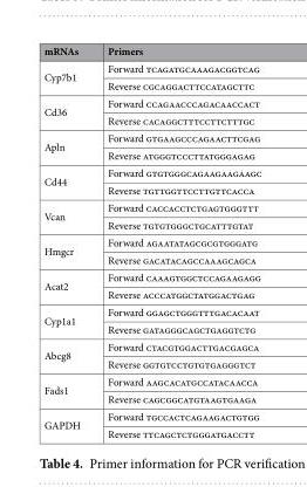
<table><thead><tr><td>mRNAs</td><td>Primers</td></tr></thead><tbody><tr><td rowspan="2">Cyp7b1</td><td>Forward tcagatgcaaagacggtcag</td></tr><tr><td>Reverse cgcaggacttccatagcttc</td></tr><tr><td rowspan="2">Cd36</td><td>Forward ccagaacccagacaaccact</td></tr><tr><td>Reverse cacaggctttccttctttgc</td></tr><tr><td rowspan="2">Apln</td><td>Forward gtgaagcccagaacttcgag</td></tr><tr><td>Reverse atgggtcccttatgggagag</td></tr><tr><td rowspan="2">Cd44</td><td>Forward gtgtgggcagaagaagaagc</td></tr><tr><td>Reverse tgttggttccttgttcacca</td></tr><tr><td rowspan="2">Vcan</td><td>Forward caccacctctgagtgggttt</td></tr><tr><td>Reverse tgtgtgggctgcatttgtat</td></tr><tr><td rowspan="2">Hmgcr</td><td>Forward agaatatagcgcgtgggatg</td></tr><tr><td>Reverse gacatacagccaaagcagca</td></tr><tr><td rowspan="2">Acat2</td><td>Forward caaagtggctccagaagagg</td></tr><tr><td>Reverse acccatggctatggactgag</td></tr><tr><td rowspan="2">Cyp1a1</td><td>Forward ggagctgggtttgacacaat</td></tr><tr><td>Reverse gatagggcagctgaggtctg</td></tr><tr><td rowspan="2">Abcg8</td><td>Forward ctacgtggacttgacgagca</td></tr><tr><td>Reverse ggtgtcctgtgtgagggtct</td></tr><tr><td rowspan="2">Fads1</td><td>Forward aagcacatgccatacaacca</td></tr><tr><td>Reverse cagcggcatgtaagtgaaga</td></tr><tr><td rowspan="2">GAPDH</td><td>Forward tgccactcagaagactgtgg</td></tr><tr><td>Reverse ttcagctctgggatgacctt</td></tr></tbody></table>